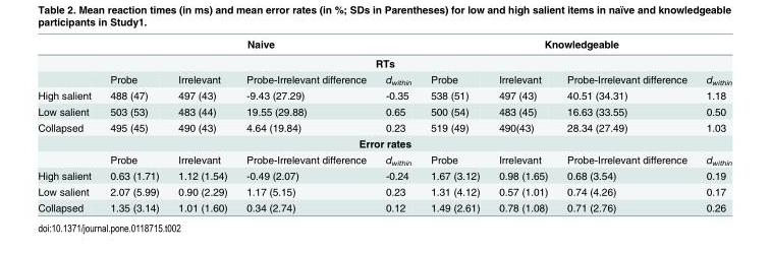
<table><thead><tr><td></td><td colspan="4">Naive</td><td colspan="4">Knowledgeable</td></tr><tr><td colspan="9">RTs</td></tr><tr><td></td><td>Probe</td><td>Irrelevant</td><td>Probe-Irrelevant difference</td><td>d<sub>within</sub></td><td>Probe</td><td>Irrelevant</td><td>Probe-Irrelevant difference</td><td>d<sub>within</sub></td></tr></thead><tbody><tr><td>High salient</td><td>488 (47)</td><td>497 (43)</td><td>-9.43 (27.29)</td><td>-0.35</td><td>538 (51)</td><td>497 (43)</td><td>40.51 (34.31)</td><td>1.18</td></tr><tr><td>Low salient</td><td>503 (53)</td><td>483 (44)</td><td>19.55 (29.88)</td><td>0.65</td><td>500 (54)</td><td>483 (45)</td><td>16.63 (33.55)</td><td>0.50</td></tr><tr><td>Collapsed</td><td>495 (45)</td><td>490 (43)</td><td>4.64 (19.84)</td><td>0.23</td><td>519 (49)</td><td>490(43)</td><td>28.34 (27.49)</td><td>1.03</td></tr><tr><td colspan="9">Error rates</td></tr><tr><td></td><td>Probe</td><td>Irrelevant</td><td>Probe-Irrelevant difference</td><td>d<sub>within</sub></td><td>Probe</td><td>Irrelevant</td><td>Probe-Irrelevant difference</td><td>d<sub>within</sub></td></tr><tr><td>High salient</td><td>0.63 (1.71)</td><td>1.12 (1.54)</td><td>-0.49 (2.07)</td><td>-0.24</td><td>1.67 (3.12)</td><td>0.98 (1.65)</td><td>0.68 (3.54)</td><td>0.19</td></tr><tr><td>Low salient</td><td>2.07 (5.99)</td><td>0.90 (2.29)</td><td>1.17 (5.15)</td><td>0.23</td><td>1.31 (4.12)</td><td>0.57 (1.01)</td><td>0.74 (4.26)</td><td>0.17</td></tr><tr><td>Collapsed</td><td>1.35 (3.14)</td><td>1.01 (1.60)</td><td>0.34 (2.74)</td><td>0.12</td><td>1.49 (2.61)</td><td>0.78 (1.08)</td><td>0.71 (2.76)</td><td>0.26</td></tr></tbody></table>